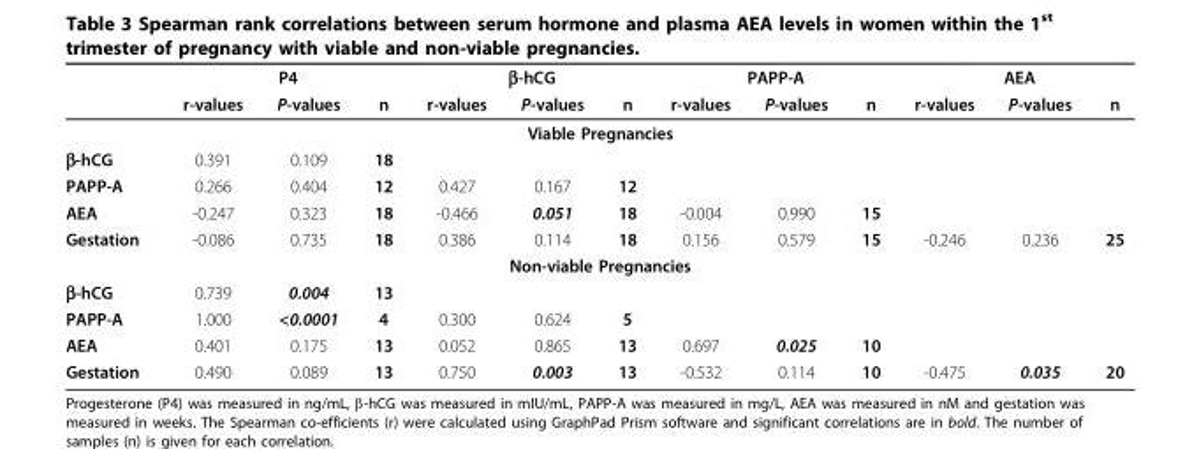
<table><thead><tr><td rowspan="2"></td><td colspan="3">P4</td><td colspan="3">β-hCG</td><td colspan="3">PAPP-A</td><td colspan="3">AEA</td></tr><tr><td>r-values</td><td>P-values</td><td>n</td><td>r-values</td><td>P-values</td><td>n</td><td>r-values</td><td>P-values</td><td>n</td><td>r-values</td><td>P-values</td><td>n</td></tr></thead><tbody><tr><td colspan="13">Viable Pregnancies</td></tr><tr><td>β-hCG</td><td>0.391</td><td>0.109</td><td>18</td><td></td><td></td><td></td><td></td><td></td><td></td><td></td><td></td><td></td></tr><tr><td>PAPP-A</td><td>0.266</td><td>0.404</td><td>12</td><td>0.427</td><td>0.167</td><td>12</td><td></td><td></td><td></td><td></td><td></td><td></td></tr><tr><td>AEA</td><td>-0.247</td><td>0.323</td><td>18</td><td>-0.466</td><td>0.051</td><td>18</td><td>-0.004</td><td>0.990</td><td>15</td><td></td><td></td><td></td></tr><tr><td>Gestation</td><td>-0.086</td><td>0.735</td><td>18</td><td>0.386</td><td>0.114</td><td>18</td><td>0.156</td><td>0.579</td><td>15</td><td>-0.246</td><td>0.236</td><td>25</td></tr><tr><td colspan="13">Non-viable Pregnancies</td></tr><tr><td>β-hCG</td><td>0.739</td><td>0.004</td><td>13</td><td></td><td></td><td></td><td></td><td></td><td></td><td></td><td></td><td></td></tr><tr><td>PAPP-A</td><td>1.000</td><td>&lt;0.0001</td><td>4</td><td>0.300</td><td>0.624</td><td>5</td><td></td><td></td><td></td><td></td><td></td><td></td></tr><tr><td>AEA</td><td>0.401</td><td>0.175</td><td>13</td><td>0.052</td><td>0.865</td><td>13</td><td>0.697</td><td>0.025</td><td>10</td><td></td><td></td><td></td></tr><tr><td>Gestation</td><td>0.490</td><td>0.089</td><td>13</td><td>0.750</td><td>0.003</td><td>13</td><td>-0.532</td><td>0.114</td><td>10</td><td>-0.475</td><td>0.035</td><td>20</td></tr></tbody></table>